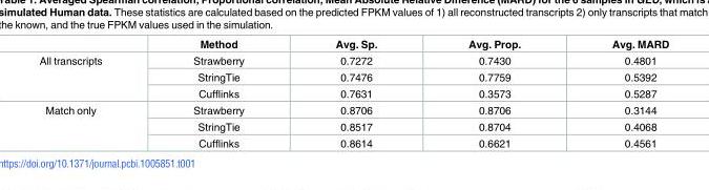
<table><thead><tr><td></td><td>Method</td><td>Avg. Sp.</td><td>Avg. Prop.</td><td>Avg. MARD</td></tr></thead><tbody><tr><td rowspan="3">All transcripts</td><td>Strawberry</td><td>0.7272</td><td>0.7430</td><td>0.4801</td></tr><tr><td>StringTie</td><td>0.7476</td><td>0.7759</td><td>0.5392</td></tr><tr><td>Cufflinks</td><td>0.7631</td><td>0.3573</td><td>0.5287</td></tr><tr><td rowspan="3">Match only</td><td>Strawberry</td><td>0.8706</td><td>0.8706</td><td>0.3144</td></tr><tr><td>StringTie</td><td>0.8517</td><td>0.8704</td><td>0.4068</td></tr><tr><td>Cufflinks</td><td>0.8614</td><td>0.6621</td><td>0.4561</td></tr></tbody></table>